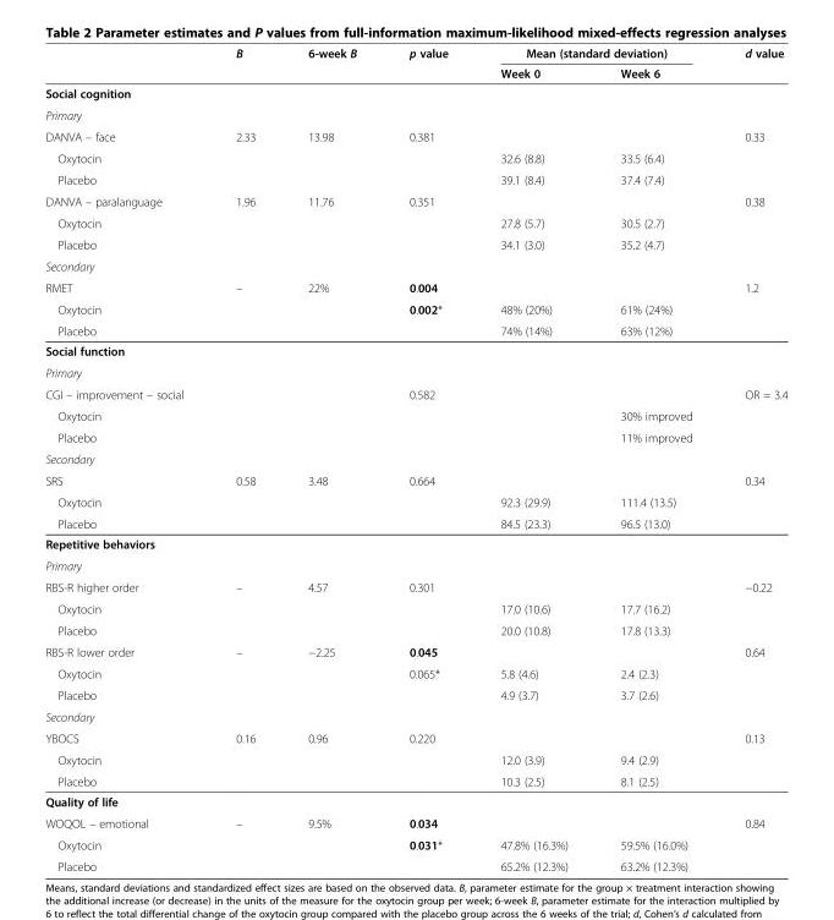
<table><thead><tr><td rowspan="2"></td><td rowspan="2">B</td><td rowspan="2">6-week B</td><td rowspan="2">p value</td><td colspan="2">Mean (standard deviation)</td><td rowspan="2">d value</td></tr><tr><td>Week 0</td><td>Week 6</td></tr></thead><tbody><tr><td colspan="7">Social cognition</td></tr><tr><td colspan="7">Primary</td></tr><tr><td>DANVA – face</td><td>2.33</td><td>13.98</td><td>0.381</td><td></td><td></td><td>0.33</td></tr><tr><td>Oxytocin</td><td></td><td></td><td></td><td>32.6 (8.8)</td><td>33.5 (6.4)</td><td></td></tr><tr><td>Placebo</td><td></td><td></td><td></td><td>39.1 (8.4)</td><td>37.4 (7.4)</td><td></td></tr><tr><td>DANVA – paralanguage</td><td>1.96</td><td>11.76</td><td>0.351</td><td></td><td></td><td>0.38</td></tr><tr><td>Oxytocin</td><td></td><td></td><td></td><td>27.8 (5.7)</td><td>30.5 (2.7)</td><td></td></tr><tr><td>Placebo</td><td></td><td></td><td></td><td>34.1 (3.0)</td><td>35.2 (4.7)</td><td></td></tr><tr><td colspan="7">Secondary</td></tr><tr><td>RMET</td><td>–</td><td>22%</td><td>0.004</td><td></td><td></td><td>1.2</td></tr><tr><td>Oxytocin</td><td></td><td></td><td>0.002*</td><td>48% (20%)</td><td>61% (24%)</td><td></td></tr><tr><td>Placebo</td><td></td><td></td><td></td><td>74% (14%)</td><td>63% (12%)</td><td></td></tr><tr><td colspan="7">Social function</td></tr><tr><td colspan="7">Primary</td></tr><tr><td>CGI – improvement – social</td><td></td><td></td><td>0.582</td><td></td><td></td><td>OR = 3.4</td></tr><tr><td>Oxytocin</td><td></td><td></td><td></td><td></td><td>30% improved</td><td></td></tr><tr><td>Placebo</td><td></td><td></td><td></td><td></td><td>11% improved</td><td></td></tr><tr><td colspan="7">Secondary</td></tr><tr><td>SRS</td><td>0.58</td><td>3.48</td><td>0.664</td><td></td><td></td><td>0.34</td></tr><tr><td>Oxytocin</td><td></td><td></td><td></td><td>92.3 (29.9)</td><td>111.4 (13.5)</td><td></td></tr><tr><td>Placebo</td><td></td><td></td><td></td><td>84.5 (23.3)</td><td>96.5 (13.0)</td><td></td></tr><tr><td colspan="7">Repetitive behaviors</td></tr><tr><td colspan="7">Primary</td></tr><tr><td>RBS-R higher order</td><td>–</td><td>4.57</td><td>0.301</td><td></td><td></td><td>−0.22</td></tr><tr><td>Oxytocin</td><td></td><td></td><td></td><td>17.0 (10.6)</td><td>17.7 (16.2)</td><td></td></tr><tr><td>Placebo</td><td></td><td></td><td></td><td>20.0 (10.8)</td><td>17.8 (13.3)</td><td></td></tr><tr><td>RBS-R lower order</td><td>–</td><td>−2.25</td><td>0.045</td><td></td><td></td><td>0.64</td></tr><tr><td>Oxytocin</td><td></td><td></td><td>0.065*</td><td>5.8 (4.6)</td><td>2.4 (2.3)</td><td></td></tr><tr><td>Placebo</td><td></td><td></td><td></td><td>4.9 (3.7)</td><td>3.7 (2.6)</td><td></td></tr><tr><td colspan="7">Secondary</td></tr><tr><td>YBOCS</td><td>0.16</td><td>0.96</td><td>0.220</td><td></td><td></td><td>0.13</td></tr><tr><td>Oxytocin</td><td></td><td></td><td></td><td>12.0 (3.9)</td><td>9.4 (2.9)</td><td></td></tr><tr><td>Placebo</td><td></td><td></td><td></td><td>10.3 (2.5)</td><td>8.1 (2.5)</td><td></td></tr><tr><td colspan="7">Quality of life</td></tr><tr><td>WOQOL – emotional</td><td>–</td><td>9.5%</td><td>0.034</td><td></td><td></td><td>0.84</td></tr><tr><td>Oxytocin</td><td></td><td></td><td>0.031*</td><td>47.8% (16.3%)</td><td>59.5% (16.0%)</td><td></td></tr><tr><td>Placebo</td><td></td><td></td><td></td><td>65.2% (12.3%)</td><td>63.2% (12.3%)</td><td></td></tr></tbody></table>